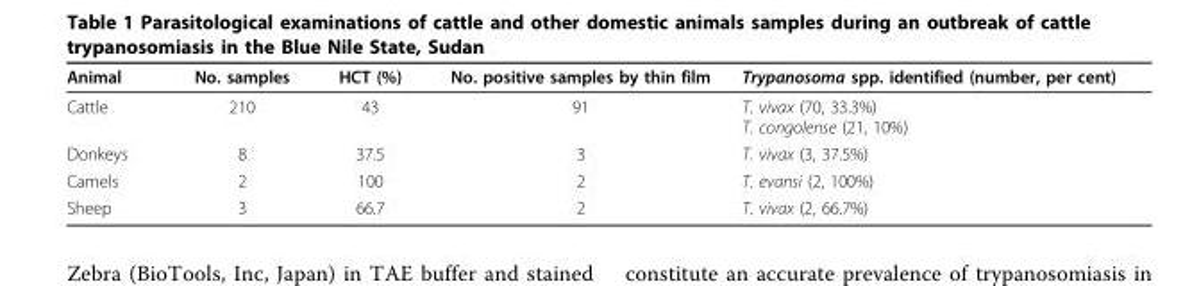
<table><thead><tr><td>Animal</td><td>No. samples</td><td>HCT (%)</td><td>No. positive samples by thin film</td><td>Trypanosoma spp. identified (number, per cent)</td></tr></thead><tbody><tr><td>Cattle</td><td>210</td><td>43</td><td>91</td><td>T. vivax (70, 33.3%) T. congolense (21, 10%)</td></tr><tr><td>Donkeys</td><td>8</td><td>37.5</td><td>3</td><td>T. vivax (3, 37.5%)</td></tr><tr><td>Camels</td><td>2</td><td>100</td><td>2</td><td>T. evansi (2, 100%)</td></tr><tr><td>Sheep</td><td>3</td><td>66.7</td><td>2</td><td>T. vivax (2, 66.7%)</td></tr></tbody></table>